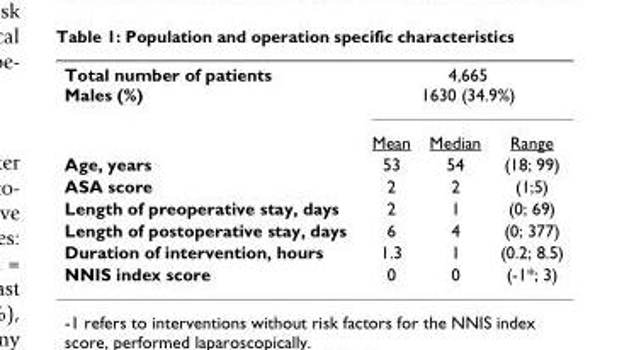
<table><tbody><tr><td rowspan="2">Total number of patients Males (%)</td><td colspan="3">4,665 1630 (34.9%)</td></tr><tr><td>Mean</td><td>Median</td><td>Range</td></tr><tr><td>Age, years</td><td>53</td><td>54</td><td>(18; 99)</td></tr><tr><td>ASA score</td><td>2</td><td>2</td><td>(1;5)</td></tr><tr><td>Length of preoperative stay, days</td><td>2</td><td>1</td><td>(0; 69)</td></tr><tr><td>Length of postoperative stay, days</td><td>6</td><td>4</td><td>(0; 377)</td></tr><tr><td>Duration of intervention, hours</td><td>1.3</td><td>1</td><td>(0.2; 8.5)</td></tr><tr><td>NNIS index score</td><td>0</td><td>0</td><td>(-1*; 3)</td></tr></tbody></table>